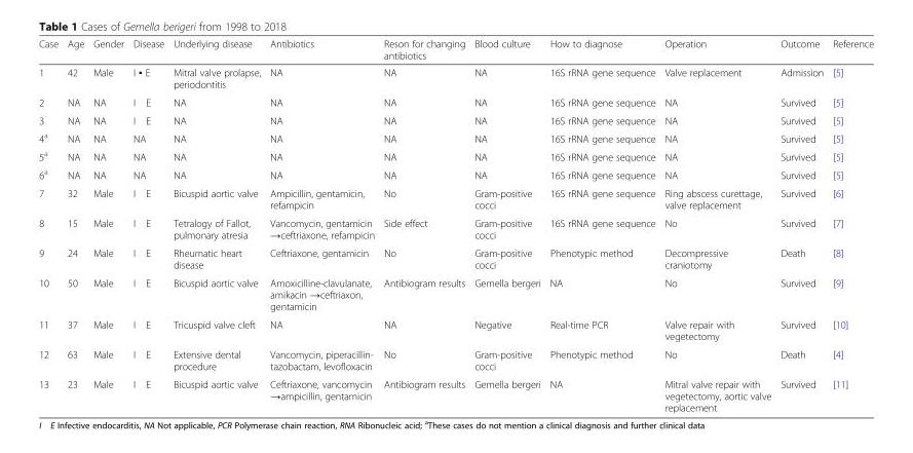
<table><thead><tr><td>Case</td><td>Age</td><td>Gender</td><td>Disease</td><td>Underlying disease</td><td>Antibiotics</td><td>Reson for changing antibiotics</td><td>Blood culture</td><td>How to diagnose</td><td>Operation</td><td>Outcome</td><td>Reference</td></tr></thead><tbody><tr><td>1</td><td>42</td><td>Male</td><td>I ▪ E</td><td>Mitral valve prolapse, periodontitis</td><td>NA</td><td>NA</td><td>NA</td><td>16S rRNA gene sequence</td><td>Valve replacement</td><td>Admission</td><td>[5]</td></tr><tr><td>2</td><td>NA</td><td>NA</td><td>I E</td><td>NA</td><td>NA</td><td>NA</td><td>NA</td><td>16S rRNA gene sequence</td><td>NA</td><td>Survived</td><td>[5]</td></tr><tr><td>3</td><td>NA</td><td>NA</td><td>I E</td><td>NA</td><td>NA</td><td>NA</td><td>NA</td><td>16S rRNA gene sequence</td><td>NA</td><td>Survived</td><td>[5]</td></tr><tr><td>4<sup>a</sup></td><td>NA</td><td>NA</td><td>NA</td><td>NA</td><td>NA</td><td>NA</td><td>NA</td><td>16S rRNA gene sequence</td><td>NA</td><td>Survived</td><td>[5]</td></tr><tr><td>5<sup>a</sup></td><td>NA</td><td>NA</td><td>NA</td><td>NA</td><td>NA</td><td>NA</td><td>NA</td><td>16S rRNA gene sequence</td><td>NA</td><td>Survived</td><td>[5]</td></tr><tr><td>6<sup>a</sup></td><td>NA</td><td>NA</td><td>NA</td><td>NA</td><td>NA</td><td>NA</td><td>NA</td><td>16S rRNA gene sequence</td><td>NA</td><td>Survived</td><td>[5]</td></tr><tr><td>7</td><td>32</td><td>Male</td><td>I E</td><td>Bicuspid aortic valve</td><td>Ampicillin, gentamicin, refampicin</td><td>No</td><td>Gram-positive cocci</td><td>16S rRNA gene sequence</td><td>Ring abscess curettage, valve replacement</td><td>Survived</td><td>[6]</td></tr><tr><td>8</td><td>15</td><td>Male</td><td>I E</td><td>Tetralogy of Fallot, pulmonary atresia</td><td>Vancomycin, gentamicin →ceftriaxone, refampicin</td><td>Side effect</td><td>Gram-positive cocci</td><td>16S rRNA gene sequence</td><td>No</td><td>Survived</td><td>[7]</td></tr><tr><td>9</td><td>24</td><td>Male</td><td>I E</td><td>Rheumatic heart disease</td><td>Ceftriaxone, gentamicin</td><td>No</td><td>Gram-positive cocci</td><td>Phenotypic method</td><td>Decompressive craniotomy</td><td>Death</td><td>[8]</td></tr><tr><td>10</td><td>50</td><td>Male</td><td>I E</td><td>Bicuspid aortic valve</td><td>Amoxicilline-clavulanate, amikacin →ceftriaxon, gentamicin</td><td>Antibiogram results</td><td>Gemella bergeri</td><td>NA</td><td>No</td><td>Survived</td><td>[9]</td></tr><tr><td>11</td><td>37</td><td>Male</td><td>I E</td><td>Tricuspid valve cleft</td><td>NA</td><td>NA</td><td>Negative</td><td>Real-time PCR</td><td>Valve repair with vegetectomy</td><td>Survived</td><td>[10]</td></tr><tr><td>12</td><td>63</td><td>Male</td><td>I E</td><td>Extensive dental procedure</td><td>Vancomycin, piperacillin- tazobactam, levofloxacin</td><td>No</td><td>Gram-positive cocci</td><td>Phenotypic method</td><td>No</td><td>Death</td><td>[4]</td></tr><tr><td>13</td><td>23</td><td>Male</td><td>I E</td><td>Bicuspid aortic valve</td><td>Ceftriaxone, vancomycin →ampicillin, gentamicin</td><td>Antibiogram results</td><td>Gemella bergeri</td><td>NA</td><td>Mitral valve repair with vegetectomy, aortic valve replacement</td><td>Survived</td><td>[11]</td></tr></tbody></table>